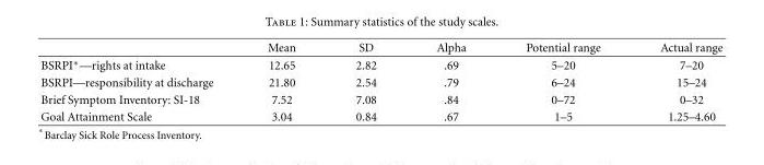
<table><thead><tr><td></td><td>Mean</td><td>SD</td><td>Alpha</td><td>Potential range</td><td>Actual range</td></tr></thead><tbody><tr><td>BSRPI∗—rights at intake</td><td>12.65</td><td>2.82</td><td>.69</td><td>5–20</td><td>7–20</td></tr><tr><td>BSRPI—responsibility at discharge</td><td>21.80</td><td>2.54</td><td>.79</td><td>6–24</td><td>15–24</td></tr><tr><td>Brief Symptom Inventory: SI-18</td><td>7.52</td><td>7.08</td><td>.84</td><td>0–72</td><td>0–32</td></tr><tr><td>Goal Attainment Scale</td><td>3.04</td><td>0.84</td><td>.67</td><td>1–5</td><td>1.25–4.60</td></tr></tbody></table>